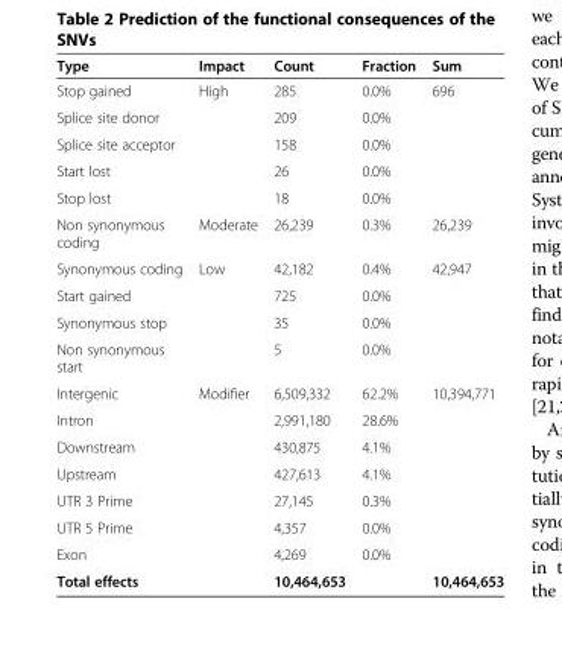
<table><thead><tr><td>Type</td><td>Impact</td><td>Count</td><td>Fraction</td><td>Sum</td></tr></thead><tbody><tr><td>Stop gained</td><td rowspan="5">High</td><td>285</td><td>0.0%</td><td rowspan="5">696</td></tr><tr><td>Splice site donor</td><td>209</td><td>0.0%</td></tr><tr><td>Splice site acceptor</td><td>158</td><td>0.0%</td></tr><tr><td>Start lost</td><td>26</td><td>0.0%</td></tr><tr><td>Stop lost</td><td>18</td><td>0.0%</td></tr><tr><td>Non synonymous coding</td><td>Moderate</td><td>26,239</td><td>0.3%</td><td>26,239</td></tr><tr><td>Synonymous coding</td><td rowspan="4">Low</td><td>42,182</td><td>0.4%</td><td rowspan="4">42,947</td></tr><tr><td>Start gained</td><td>725</td><td>0.0%</td></tr><tr><td>Synonymous stop</td><td>35</td><td>0.0%</td></tr><tr><td>Non synonymous start</td><td>5</td><td>0.0%</td></tr><tr><td>Intergenic</td><td rowspan="7">Modifier</td><td>6,509,332</td><td>62.2%</td><td rowspan="7">10,394,771</td></tr><tr><td>Intron</td><td>2,991,180</td><td>28.6%</td></tr><tr><td>Downstream</td><td>430,875</td><td>4.1%</td></tr><tr><td>Upstream</td><td>427,613</td><td>4.1%</td></tr><tr><td>UTR 3 Prime</td><td>27,145</td><td>0.3%</td></tr><tr><td>UTR 5 Prime</td><td>4,357</td><td>0.0%</td></tr><tr><td>Exon</td><td>4,269</td><td>0.0%</td></tr><tr><td>Total effects</td><td></td><td>10,464,653</td><td></td><td>10,464,653</td></tr></tbody></table>